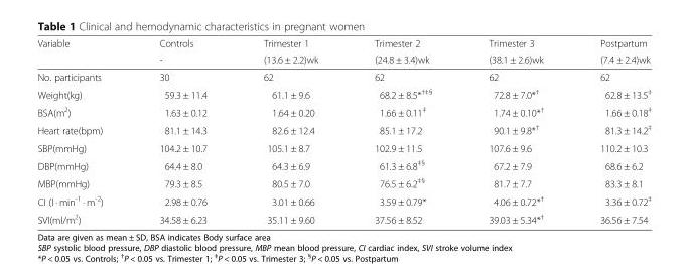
<table><thead><tr><td rowspan="2">Variable</td><td rowspan="2">Controls -</td><td rowspan="2">Trimester 1 (13.6 ± 2.2)wk</td><td rowspan="2">Trimester 2 (24.8 ± 3.4)wk</td><td rowspan="2">Trimester 3 (38.1 ± 2.6)wk</td><td rowspan="2">Postpartum (7.4 ± 2.4)wk</td></tr><tr></tr></thead><tbody><tr><td>No. participants</td><td>30</td><td>62</td><td>62</td><td>62</td><td>62</td></tr><tr><td>Weight(kg)</td><td>59.3 ± 11.4</td><td>61.1 ± 9.6</td><td>68.2 ± 8.5*<sup>†‡§</sup></td><td>72.8 ± 7.0*<sup>†</sup></td><td>62.8 ± 13.5<sup>‡</sup></td></tr><tr><td>BSA(m<sup>2</sup>)</td><td>1.63 ± 0.12</td><td>1.64 ± 0.20</td><td>1.66 ± 0.11<sup>‡</sup></td><td>1.74 ± 0.10*<sup>†</sup></td><td>1.66 ± 0.18<sup>‡</sup></td></tr><tr><td>Heart rate(bpm)</td><td>81.1 ± 14.3</td><td>82.6 ± 12.4</td><td>85.1 ± 17.2</td><td>90.1 ± 9.8*<sup>†</sup></td><td>81.3 ± 14.2<sup>‡</sup></td></tr><tr><td>SBP(mmHg)</td><td>104.2 ± 10.7</td><td>105.1 ± 8.7</td><td>102.9 ± 11.5</td><td>107.6 ± 9.6</td><td>110.2 ± 10.3</td></tr><tr><td>DBP(mmHg)</td><td>64.4 ± 8.0</td><td>64.3 ± 6.9</td><td>61.3 ± 6.8<sup>‡§</sup></td><td>67.2 ± 7.9</td><td>68.6 ± 6.2</td></tr><tr><td>MBP(mmHg)</td><td>79.3 ± 8.5</td><td>80.5 ± 7.0</td><td>76.5 ± 6.2<sup>‡§</sup></td><td>81.7 ± 7.7</td><td>83.3 ± 8.1</td></tr><tr><td>CI (l · min<sup>-1</sup> · m<sup>-2</sup>)</td><td>2.98 ± 0.76</td><td>3.01 ± 0.66</td><td>3.59 ± 0.79*</td><td>4.06 ± 0.72*<sup>†</sup></td><td>3.36 ± 0.72<sup>‡</sup></td></tr><tr><td>SVI(ml/m<sup>2</sup>)</td><td>34.58 ± 6.23</td><td>35.11 ± 9.60</td><td>37.56 ± 8.52</td><td>39.03 ± 5.34*<sup>†</sup></td><td>36.56 ± 7.54</td></tr></tbody></table>